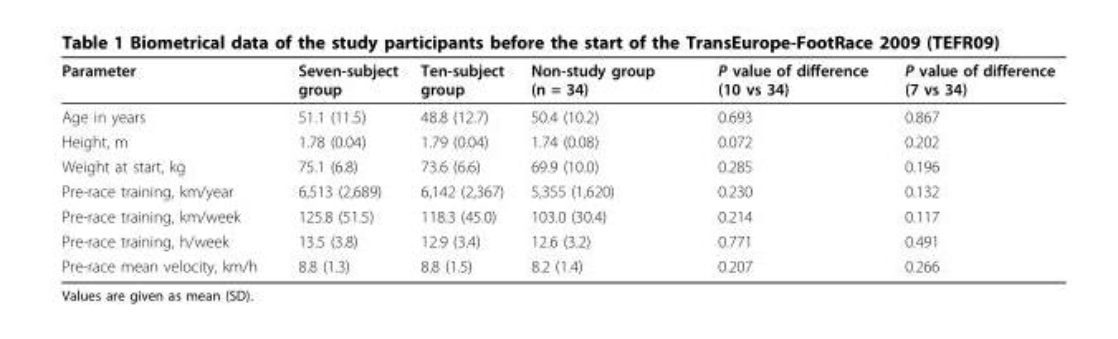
<table><thead><tr><td>Parameter</td><td>Seven-subject group</td><td>Ten-subject group</td><td>Non-study group (n = 34)</td><td>P value of difference (10 vs 34)</td><td>P value of difference (7 vs 34)</td></tr></thead><tbody><tr><td>Age in years</td><td>51.1 (11.5)</td><td>48.8 (12.7)</td><td>50.4 (10.2)</td><td>0.693</td><td>0.867</td></tr><tr><td>Height, m</td><td>1.78 (0.04)</td><td>1.79 (0.04)</td><td>1.74 (0.08)</td><td>0.072</td><td>0.202</td></tr><tr><td>Weight at start, kg</td><td>75.1 (6.8)</td><td>73.6 (6.6)</td><td>69.9 (10.0)</td><td>0.285</td><td>0.196</td></tr><tr><td>Pre-race training, km/year</td><td>6,513 (2,689)</td><td>6,142 (2,367)</td><td>5,355 (1,620)</td><td>0.230</td><td>0.132</td></tr><tr><td>Pre-race training, km/week</td><td>125.8 (51.5)</td><td>118.3 (45.0)</td><td>103.0 (30.4)</td><td>0.214</td><td>0.117</td></tr><tr><td>Pre-race training, h/week</td><td>13.5 (3.8)</td><td>12.9 (3.4)</td><td>12.6 (3.2)</td><td>0.771</td><td>0.491</td></tr><tr><td>Pre-race mean velocity, km/h</td><td>8.8 (1.3)</td><td>8.8 (1.5)</td><td>8.2 (1.4)</td><td>0.207</td><td>0.266</td></tr></tbody></table>